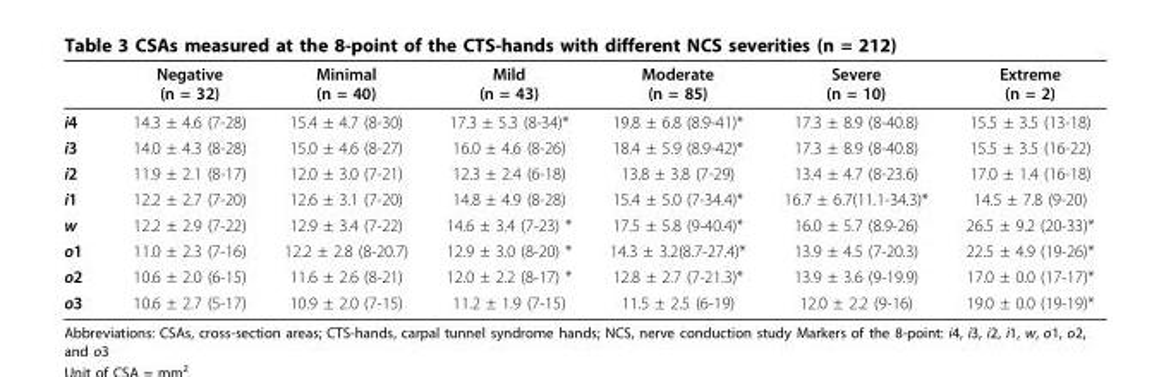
<table><thead><tr><td></td><td>Negative (n = 32)</td><td>Minimal (n = 40)</td><td>Mild (n = 43)</td><td>Moderate (n = 85)</td><td>Severe (n = 10)</td><td>Extreme (n = 2)</td></tr></thead><tbody><tr><td>i4</td><td>14.3 ± 4.6 (7-28)</td><td>15.4 ± 4.7 (8-30)</td><td>17.3 ± 5.3 (8-34)*</td><td>19.8 ± 6.8 (8.9-41)*</td><td>17.3 ± 8.9 (8-40.8)</td><td>15.5 ± 3.5 (13-18)</td></tr><tr><td>i3</td><td>14.0 ± 4.3 (8-28)</td><td>15.0 ± 4.6 (8-27)</td><td>16.0 ± 4.6 (8-26)</td><td>18.4 ± 5.9 (8.9-42)*</td><td>17.3 ± 8.9 (8-40.8)</td><td>15.5 ± 3.5 (16-22)</td></tr><tr><td>i2</td><td>11.9 ± 2.1 (8-17)</td><td>12.0 ± 3.0 (7-21)</td><td>12.3 ± 2.4 (6-18)</td><td>13.8 ± 3.8 (7-29)</td><td>13.4 ± 4.7 (8-23.6)</td><td>17.0 ± 1.4 (16-18)</td></tr><tr><td>i1</td><td>12.2 ± 2.7 (7-20)</td><td>12.6 ± 3.1 (7-20)</td><td>14.8 ± 4.9 (8-28)</td><td>15.4 ± 5.0 (7-34.4)*</td><td>16.7 ± 6.7(11.1-34.3)*</td><td>14.5 ± 7.8 (9-20)</td></tr><tr><td>w</td><td>12.2 ± 2.9 (7-22)</td><td>12.9 ± 3.4 (7-22)</td><td>14.6 ± 3.4 (7-23) *</td><td>17.5 ± 5.8 (9-40.4)*</td><td>16.0 ± 5.7 (8.9-26)</td><td>26.5 ± 9.2 (20-33)*</td></tr><tr><td>o1</td><td>11.0 ± 2.3 (7-16)</td><td>12.2 ± 2.8 (8-20.7)</td><td>12.9 ± 3.0 (8-20) *</td><td>14.3 ± 3.2(8.7-27.4)*</td><td>13.9 ± 4.5 (7-20.3)</td><td>22.5 ± 4.9 (19-26)*</td></tr><tr><td>o2</td><td>10.6 ± 2.0 (6-15)</td><td>11.6 ± 2.6 (8-21)</td><td>12.0 ± 2.2 (8-17) *</td><td>12.8 ± 2.7 (7-21.3)*</td><td>13.9 ± 3.6 (9-19.9)</td><td>17.0 ± 0.0 (17-17)*</td></tr><tr><td>o3</td><td>10.6 ± 2.7 (5-17)</td><td>10.9 ± 2.0 (7-15)</td><td>11.2 ± 1.9 (7-15)</td><td>11.5 ± 2.5 (6-19)</td><td>12.0 ± 2.2 (9-16)</td><td>19.0 ± 0.0 (19-19)*</td></tr></tbody></table>